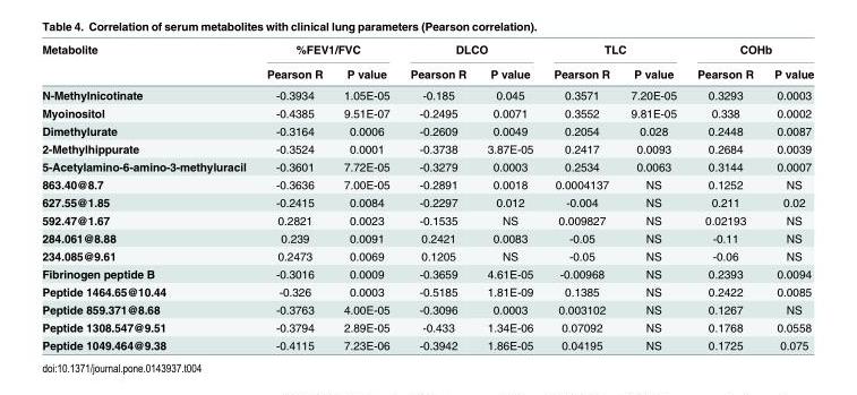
<table><thead><tr><td rowspan="2">Metabolite</td><td colspan="2">%FEV1/FVC</td><td colspan="2">DLCO</td><td colspan="2">TLC</td><td colspan="2">COHb</td></tr><tr><td>Pearson R</td><td>P value</td><td>Pearson R</td><td>P value</td><td>Pearson R</td><td>P value</td><td>Pearson R</td><td>P value</td></tr></thead><tbody><tr><td>N-Methylnicotinate</td><td>-0.3934</td><td>1.05E-05</td><td>-0.185</td><td>0.045</td><td>0.3571</td><td>7.20E-05</td><td>0.3293</td><td>0.0003</td></tr><tr><td>Myoinositol</td><td>-0.4385</td><td>9.51E-07</td><td>-0.2495</td><td>0.0071</td><td>0.3552</td><td>9.81E-05</td><td>0.338</td><td>0.0002</td></tr><tr><td>Dimethylurate</td><td>-0.3164</td><td>0.0006</td><td>-0.2609</td><td>0.0049</td><td>0.2054</td><td>0.028</td><td>0.2448</td><td>0.0087</td></tr><tr><td>2-Methylhippurate</td><td>-0.3524</td><td>0.0001</td><td>-0.3738</td><td>3.87E-05</td><td>0.2417</td><td>0.0093</td><td>0.2684</td><td>0.0039</td></tr><tr><td>5-Acetylamino-6-amino-3-methyluracil</td><td>-0.3601</td><td>7.72E-05</td><td>-0.3279</td><td>0.0003</td><td>0.2534</td><td>0.0063</td><td>0.3144</td><td>0.0007</td></tr><tr><td>863.40@8.7</td><td>-0.3636</td><td>7.00E-05</td><td>-0.2891</td><td>0.0018</td><td>0.0004137</td><td>NS</td><td>0.1252</td><td>NS</td></tr><tr><td>627.55@1.85</td><td>-0.2415</td><td>0.0084</td><td>-0.2297</td><td>0.012</td><td>-0.004</td><td>NS</td><td>0.211</td><td>0.02</td></tr><tr><td>592.47@1.67</td><td>0.2821</td><td>0.0023</td><td>-0.1535</td><td>NS</td><td>0.009827</td><td>NS</td><td>0.02193</td><td>NS</td></tr><tr><td>284.061@8.88</td><td>0.239</td><td>0.0091</td><td>0.2421</td><td>0.0083</td><td>-0.05</td><td>NS</td><td>-0.11</td><td>NS</td></tr><tr><td>234.085@9.61</td><td>0.2473</td><td>0.0069</td><td>0.1205</td><td>NS</td><td>-0.05</td><td>NS</td><td>-0.06</td><td>NS</td></tr><tr><td>Fibrinogen peptide B</td><td>-0.3016</td><td>0.0009</td><td>-0.3659</td><td>4.61E-05</td><td>-0.00968</td><td>NS</td><td>0.2393</td><td>0.0094</td></tr><tr><td>Peptide 1464.65@10.44</td><td>-0.326</td><td>0.0003</td><td>-0.5185</td><td>1.81E-09</td><td>0.1385</td><td>NS</td><td>0.2422</td><td>0.0085</td></tr><tr><td>Peptide 859.371@8.68</td><td>-0.3763</td><td>4.00E-05</td><td>-0.3096</td><td>0.0003</td><td>0.003102</td><td>NS</td><td>0.1267</td><td>NS</td></tr><tr><td>Peptide 1308.547@9.51</td><td>-0.3794</td><td>2.89E-05</td><td>-0.433</td><td>1.34E-06</td><td>0.07092</td><td>NS</td><td>0.1768</td><td>0.0558</td></tr><tr><td>Peptide 1049.464@9.38</td><td>-0.4115</td><td>7.23E-06</td><td>-0.3942</td><td>1.86E-05</td><td>0.04195</td><td>NS</td><td>0.1725</td><td>0.075</td></tr></tbody></table>